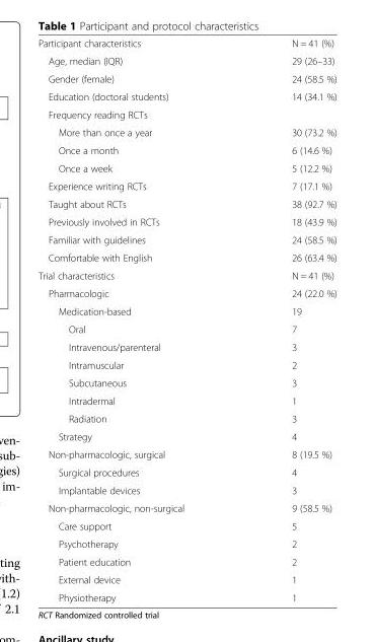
<table><tbody><tr><td>Participant characteristics</td><td>N = 41 (%)</td></tr><tr><td>Age, median (IQR)</td><td>29 (26–33)</td></tr><tr><td>Gender (female)</td><td>24 (58.5 %)</td></tr><tr><td>Education (doctoral students)</td><td>14 (34.1 %)</td></tr><tr><td colspan="2">Frequency reading RCTs</td></tr><tr><td>More than once a year</td><td>30 (73.2 %)</td></tr><tr><td>Once a month</td><td>6 (14.6 %)</td></tr><tr><td>Once a week</td><td>5 (12.2 %)</td></tr><tr><td>Experience writing RCTs</td><td>7 (17.1 %)</td></tr><tr><td>Taught about RCTs</td><td>38 (92.7 %)</td></tr><tr><td>Previously involved in RCTs</td><td>18 (43.9 %)</td></tr><tr><td>Familiar with guidelines</td><td>24 (58.5 %)</td></tr><tr><td>Comfortable with English</td><td>26 (63.4 %)</td></tr><tr><td>Trial characteristics</td><td>N = 41 (%)</td></tr><tr><td>Pharmacologic</td><td>24 (22.0 %)</td></tr><tr><td>Medication-based</td><td>19</td></tr><tr><td>Oral</td><td>7</td></tr><tr><td>Intravenous/parenteral</td><td>3</td></tr><tr><td>Intramuscular</td><td>2</td></tr><tr><td>Subcutaneous</td><td>3</td></tr><tr><td>Intradermal</td><td>1</td></tr><tr><td>Radiation</td><td>3</td></tr><tr><td>Strategy</td><td>4</td></tr><tr><td>Non-pharmacologic, surgical</td><td>8 (19.5 %)</td></tr><tr><td>Surgical procedures</td><td>4</td></tr><tr><td>Implantable devices</td><td>3</td></tr><tr><td>Non-pharmacologic, non-surgical</td><td>9 (58.5 %)</td></tr><tr><td>Care support</td><td>5</td></tr><tr><td>Psychotherapy</td><td>2</td></tr><tr><td>Patient education</td><td>2</td></tr><tr><td>External device</td><td>1</td></tr><tr><td>Physiotherapy</td><td>1</td></tr></tbody></table>